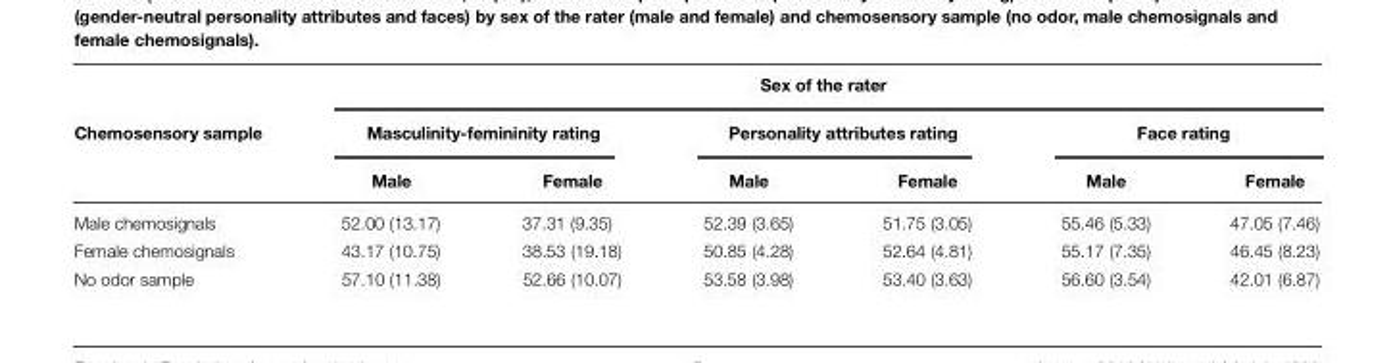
<table><thead><tr><td rowspan="3">Chemosensory sample</td><td colspan="6">Sex of the rater</td></tr><tr><td colspan="2">Masculinity-femininity rating</td><td colspan="2">Personality attributes rating</td><td colspan="2">Face rating</td></tr><tr><td>Male</td><td>Female</td><td>Male</td><td>Female</td><td>Male</td><td>Female</td></tr></thead><tbody><tr><td>Male chemosignals</td><td>52.00 (13.17)</td><td>37.31 (9.35)</td><td>52.39 (3.65)</td><td>51.75 (3.05)</td><td>55.46 (5.33)</td><td>47.05 (7.46)</td></tr><tr><td>Female chemosignals</td><td>43.17 (10.75)</td><td>38.53 (19.18)</td><td>50.85 (4.28)</td><td>52.64 (4.81)</td><td>55.17 (7.35)</td><td>46.45 (8.23)</td></tr><tr><td>No odor sample</td><td>57.10 (11.38)</td><td>52.66 (10.07)</td><td>53.58 (3.98)</td><td>53.40 (3.63)</td><td>56.60 (3.54)</td><td>42.01 (6.87)</td></tr></tbody></table>